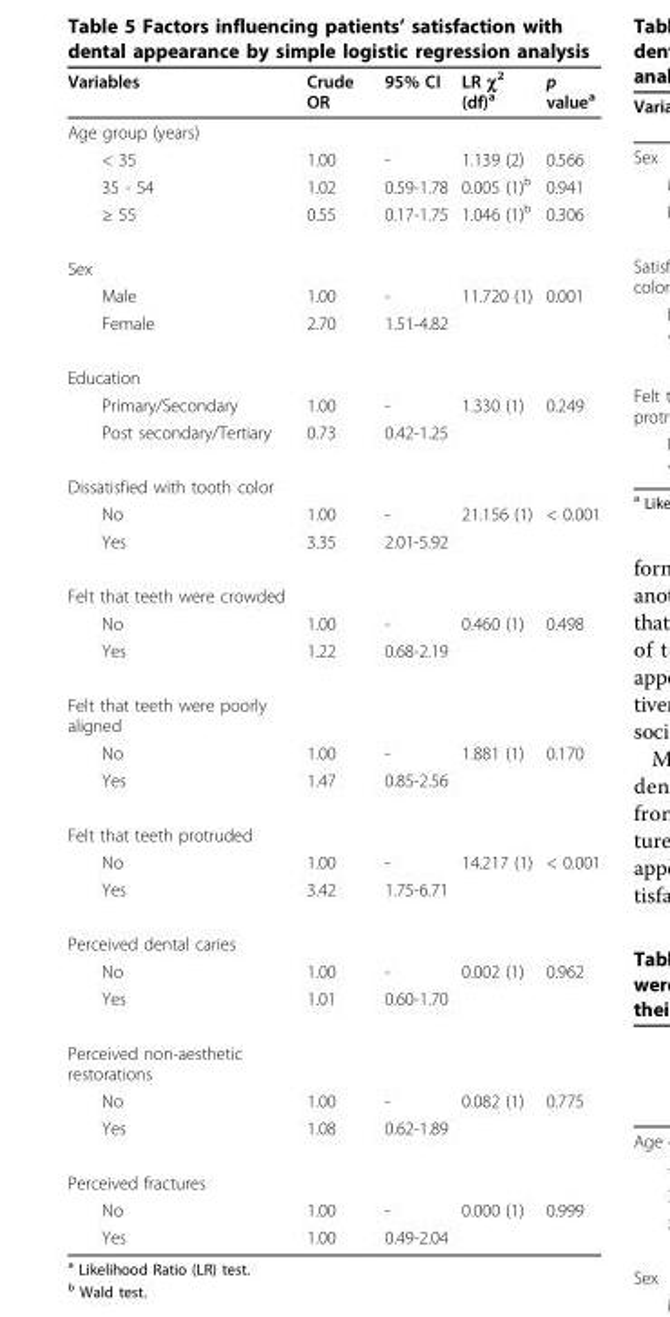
<table><thead><tr><td>Variables</td><td>Crude OR</td><td>95% CI</td><td>LR χ<sup>2</sup> (df)<sup>a</sup></td><td>p value<sup>a</sup></td></tr></thead><tbody><tr><td colspan="5">Age group (years)</td></tr><tr><td>&lt; 35</td><td>1.00</td><td>-</td><td>1.139 (2)</td><td>0.566</td></tr><tr><td>35 - 54</td><td>1.02</td><td>0.59-1.78</td><td>0.005 (1)<sup>b</sup></td><td>0.941</td></tr><tr><td>≥ 55</td><td>0.55</td><td>0.17-1.75</td><td>1.046 (1)<sup>b</sup></td><td>0.306</td></tr><tr><td colspan="5">Sex</td></tr><tr><td>Male</td><td>1.00</td><td>-</td><td>11.720 (1)</td><td>0.001</td></tr><tr><td>Female</td><td>2.70</td><td>1.51-4.82</td><td></td><td></td></tr><tr><td colspan="5">Education</td></tr><tr><td>Primary/Secondary</td><td>1.00</td><td>-</td><td>1.330 (1)</td><td>0.249</td></tr><tr><td>Post secondary/Tertiary</td><td>0.73</td><td>0.42-1.25</td><td></td><td></td></tr><tr><td colspan="5">Dissatisfied with tooth color</td></tr><tr><td>No</td><td>1.00</td><td>-</td><td>21.156 (1)</td><td>&lt; 0.001</td></tr><tr><td>Yes</td><td>3.35</td><td>2.01-5.92</td><td></td><td></td></tr><tr><td colspan="5">Felt that teeth were crowded</td></tr><tr><td>No</td><td>1.00</td><td>-</td><td>0.460 (1)</td><td>0.498</td></tr><tr><td>Yes</td><td>1.22</td><td>0.68-2.19</td><td></td><td></td></tr><tr><td colspan="5">Felt that teeth were poorly aligned</td></tr><tr><td>No</td><td>1.00</td><td>-</td><td>1.881 (1)</td><td>0.170</td></tr><tr><td>Yes</td><td>1.47</td><td>0.85-2.56</td><td></td><td></td></tr><tr><td colspan="5">Felt that teeth protruded</td></tr><tr><td>No</td><td>1.00</td><td>-</td><td>14.217 (1)</td><td>&lt; 0.001</td></tr><tr><td>Yes</td><td>3.42</td><td>1.75-6.71</td><td></td><td></td></tr><tr><td colspan="5">Perceived dental caries</td></tr><tr><td>No</td><td>1.00</td><td>-</td><td>0.002 (1)</td><td>0.962</td></tr><tr><td>Yes</td><td>1.01</td><td>0.60-1.70</td><td></td><td></td></tr><tr><td colspan="5">Perceived non-aesthetic restorations</td></tr><tr><td>No</td><td>1.00</td><td>-</td><td>0.082 (1)</td><td>0.775</td></tr><tr><td>Yes</td><td>1.08</td><td>0.62-1.89</td><td></td><td></td></tr><tr><td colspan="5">Perceived fractures</td></tr><tr><td>No</td><td>1.00</td><td>-</td><td>0.000 (1)</td><td>0.999</td></tr><tr><td>Yes</td><td>1.00</td><td>0.49-2.04</td><td></td><td></td></tr></tbody></table>